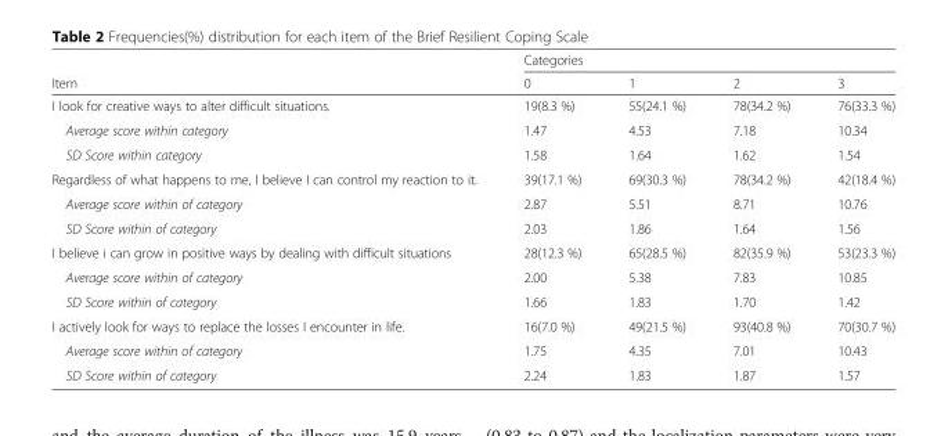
<table><thead><tr><td rowspan="2">Item</td><td colspan="4">Categories</td></tr><tr><td>0</td><td>1</td><td>2</td><td>3</td></tr></thead><tbody><tr><td>I look for creative ways to alter difficult situations.</td><td>19(8.3 %)</td><td>55(24.1 %)</td><td>78(34.2 %)</td><td>76(33.3 %)</td></tr><tr><td>Average score within category</td><td>1.47</td><td>4.53</td><td>7.18</td><td>10.34</td></tr><tr><td>SD Score within category</td><td>1.58</td><td>1.64</td><td>1.62</td><td>1.54</td></tr><tr><td>Regardless of what happens to me, I believe I can control my reaction to it.</td><td>39(17.1 %)</td><td>69(30.3 %)</td><td>78(34.2 %)</td><td>42(18.4 %)</td></tr><tr><td>Average score within of category</td><td>2.87</td><td>5.51</td><td>8.71</td><td>10.76</td></tr><tr><td>SD Score within of category</td><td>2.03</td><td>1.86</td><td>1.64</td><td>1.56</td></tr><tr><td>I believe i can grow in positive ways by dealing with difficult situations</td><td>28(12.3 %)</td><td>65(28.5 %)</td><td>82(35.9 %)</td><td>53(23.3 %)</td></tr><tr><td>Average score within of category</td><td>2.00</td><td>5.38</td><td>7.83</td><td>10.85</td></tr><tr><td>SD Score within of category</td><td>1.66</td><td>1.83</td><td>1.70</td><td>1.42</td></tr><tr><td>I actively look for ways to replace the losses I encounter in life.</td><td>16(7.0 %)</td><td>49(21.5 %)</td><td>93(40.8 %)</td><td>70(30.7 %)</td></tr><tr><td>Average score within of category</td><td>1.75</td><td>4.35</td><td>7.01</td><td>10.43</td></tr><tr><td>SD Score within of category</td><td>2.24</td><td>1.83</td><td>1.87</td><td>1.57</td></tr></tbody></table>